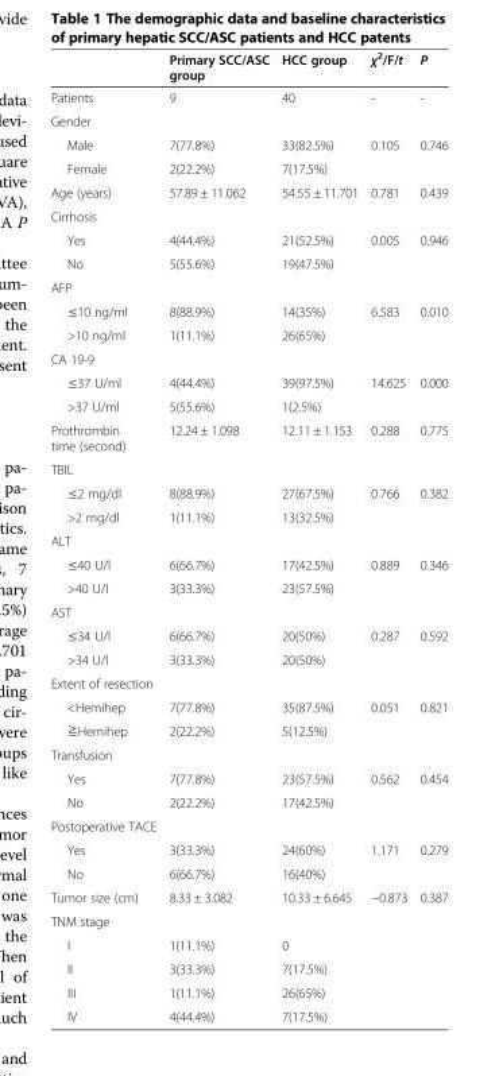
<table><thead><tr><td></td><td>Primary SCC/ASC group</td><td>HCC group</td><td>χ<sup>2</sup>/F/t</td><td>P</td></tr></thead><tbody><tr><td>Patients</td><td>9</td><td>40</td><td>-</td><td>-</td></tr><tr><td colspan="5">Gender</td></tr><tr><td>Male</td><td>7(77.8%)</td><td>33(82.5%)</td><td rowspan="2">0.105</td><td rowspan="2">0.746</td></tr><tr><td>Female</td><td>2(22.2%)</td><td>7(17.5%)</td></tr><tr><td>Age (years)</td><td>57.89 ± 11.062</td><td>54.55 ± 11.701</td><td>0.781</td><td>0.439</td></tr><tr><td colspan="5">Cirrhosis</td></tr><tr><td>Yes</td><td>4(44.4%)</td><td>21(52.5%)</td><td rowspan="2">0.005</td><td rowspan="2">0.946</td></tr><tr><td>No</td><td>5(55.6%)</td><td>19(47.5%)</td></tr><tr><td colspan="5">AFP</td></tr><tr><td>≤10 ng/ml</td><td>8(88.9%)</td><td>14(35%)</td><td rowspan="2">6.583</td><td rowspan="2">0.010</td></tr><tr><td>&gt;10 ng/ml</td><td>1(11.1%)</td><td>26(65%)</td></tr><tr><td colspan="5">CA 19-9</td></tr><tr><td>≤37 U/ml</td><td>4(44.4%)</td><td>39(97.5%)</td><td rowspan="2">14.625</td><td rowspan="2">0.000</td></tr><tr><td>&gt;37 U/ml</td><td>5(55.6%)</td><td>1(2.5%)</td></tr><tr><td>Prothrombin time (second)</td><td>12.24 ± 1.098</td><td>12.11 ± 1.153</td><td>0.288</td><td>0.775</td></tr><tr><td colspan="5">TBIL</td></tr><tr><td>≤2 mg/dl</td><td>8(88.9%)</td><td>27(67.5%)</td><td rowspan="2">0.766</td><td rowspan="2">0.382</td></tr><tr><td>&gt;2 mg/dl</td><td>1(11.1%)</td><td>13(32.5%)</td></tr><tr><td colspan="5">ALT</td></tr><tr><td>≤40 U/l</td><td>6(66.7%)</td><td>17(42.5%)</td><td rowspan="2">0.889</td><td rowspan="2">0.346</td></tr><tr><td>&gt;40 U/l</td><td>3(33.3%)</td><td>23(57.5%)</td></tr><tr><td colspan="5">AST</td></tr><tr><td>≤34 U/l</td><td>6(66.7%)</td><td>20(50%)</td><td rowspan="2">0.287</td><td rowspan="2">0.592</td></tr><tr><td>&gt;34 U/l</td><td>3(33.3%)</td><td>20(50%)</td></tr><tr><td colspan="5">Extent of resection</td></tr><tr><td>&lt;Hemihep</td><td>7(77.8%)</td><td>35(87.5%)</td><td rowspan="2">0.051</td><td rowspan="2">0.821</td></tr><tr><td>≧Hemihep</td><td>2(22.2%)</td><td>5(12.5%)</td></tr><tr><td colspan="5">Transfusion</td></tr><tr><td>Yes</td><td>7(77.8%)</td><td>23(57.5%)</td><td rowspan="2">0.562</td><td rowspan="2">0.454</td></tr><tr><td>No</td><td>2(22.2%)</td><td>17(42.5%)</td></tr><tr><td colspan="5">Postoperative TACE</td></tr><tr><td>Yes</td><td>3(33.3%)</td><td>24(60%)</td><td rowspan="2">1.171</td><td rowspan="2">0.279</td></tr><tr><td>No</td><td>6(66.7%)</td><td>16(40%)</td></tr><tr><td>Tumor size (cm)</td><td>8.33 ± 3.082</td><td>10.33 ± 6.645</td><td>−0.873</td><td>0.387</td></tr><tr><td colspan="5">TNM stage</td></tr><tr><td>I</td><td>1(11.1%)</td><td>0</td><td></td><td></td></tr><tr><td>II</td><td>3(33.3%)</td><td>7(17.5%)</td><td></td><td></td></tr><tr><td>III</td><td>1(11.1%)</td><td>26(65%)</td><td></td><td></td></tr><tr><td>IV</td><td>4(44.4%)</td><td>7(17.5%)</td><td></td><td></td></tr></tbody></table>